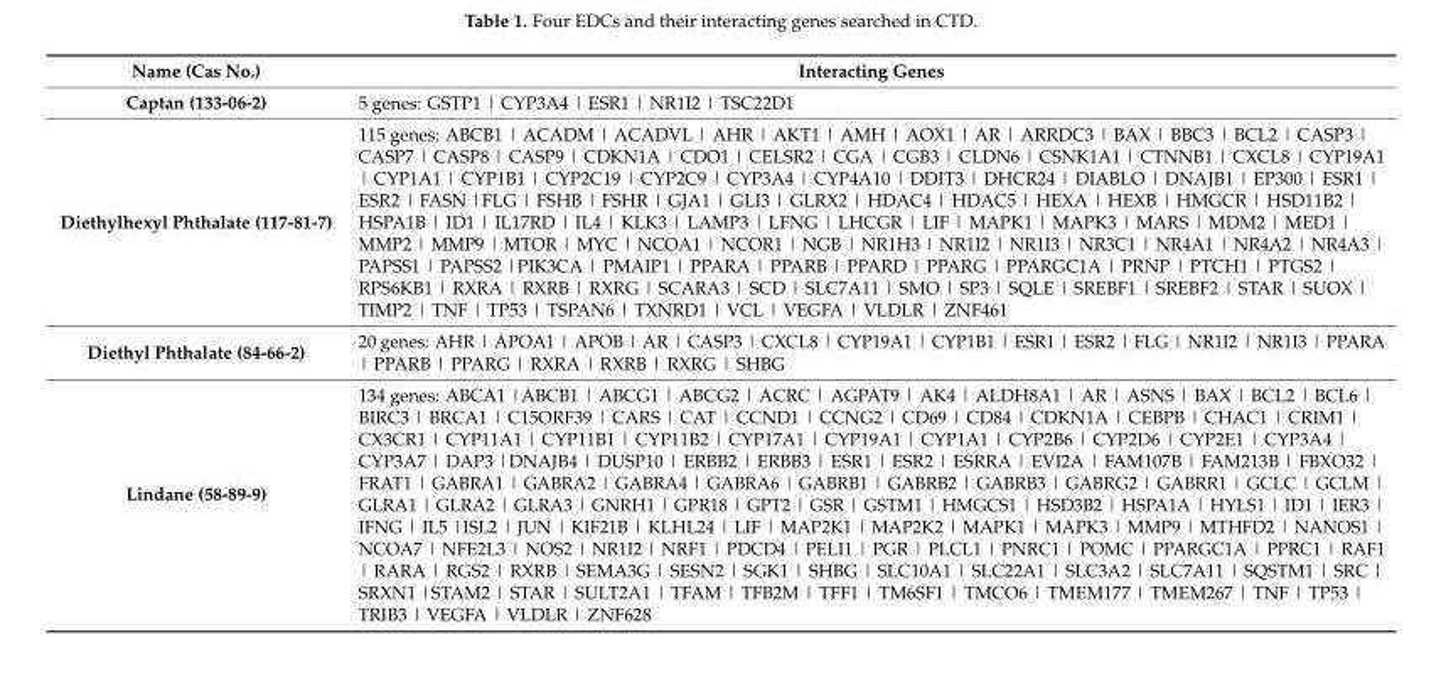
<table><thead><tr><td>Name (Cas No.)</td><td>Interacting Genes</td></tr></thead><tbody><tr><td>Captan (133-06-2)</td><td>5 genes: GSTP1 | CYP3A4 | ESR1 | NR1I2 | TSC22D1</td></tr><tr><td>Diethylhexyl Phthalate (117-81-7)</td><td>115 genes: ABCB1 | ACADM | ACADVL | AHR | AKT1 | AMH | AOX1 | AR | ARRDC3 | BAX | BBC3 | BCL2 | CASP3 | CASP7 | CASP8 | CASP9 | CDKN1A | CDO1 | CELSR2 | CGA | CGB3 | CLDN6 | CSNK1A1 | CTNNB1 | CXCL8 | CYP19A1 | CYP1A1 | CYP1B1 | CYP2C19 | CYP2C9 | CYP3A4 | CYP4A10 | DDIT3 | DHCR24 | DIABLO | DNAJB1 | EP300 | ESR1 | ESR2 | FASN |FLG | FSHB | FSHR | GJA1 | GLI3 | GLRX2 | HDAC4 | HDAC5 | HEXA | HEXB | HMGCR | HSD11B2 | HSPA1B | ID1 | IL17RD | IL4 | KLK3 | LAMP3 | LFNG | LHCGR | LIF | MAPK1 | MAPK3 | MARS | MDM2 | MED1 | MMP2 | MMP9 | MTOR | MYC | NCOA1 | NCOR1 | NGB | NR1H3 | NR1I2 | NR1I3 | NR3C1 | NR4A1 | NR4A2 | NR4A3 | PAPSS1 | PAPSS2 |PIK3CA | PMAIP1 | PPARA | PPARB | PPARD | PPARG | PPARGC1A | PRNP | PTCH1 | PTGS2 | RPS6KB1 | RXRA | RXRB | RXRG | SCARA3 | SCD | SLC7A11 | SMO | SP3 | SQLE | SREBF1 | SREBF2 | STAR | SUOX | TIMP2 | TNF | TP53 | TSPAN6 | TXNRD1 | VCL | VEGFA | VLDLR | ZNF461</td></tr><tr><td>Diethyl Phthalate (84-66-2)</td><td>20 genes: AHR | APOA1 | APOB | AR | CASP3 | CXCL8 | CYP19A1 | CYP1B1 | ESR1 | ESR2 | FLG | NR1I2 | NR1I3 | PPARA | PPARB | PPARG | RXRA | RXRB | RXRG | SHBG</td></tr><tr><td>Lindane (58-89-9)</td><td>134 genes: ABCA1 |ABCB1 | ABCG1 | ABCG2 | ACRC | AGPAT9 | AK4 | ALDH8A1 | AR | ASNS | BAX | BCL2 | BCL6 | BIRC3 | BRCA1 | C15ORF39 | CARS | CAT | CCND1 | CCNG2 | CD69 | CD84 | CDKN1A | CEBPB | CHAC1 | CRIM1 | CX3CR1 | CYP11A1 | CYP11B1 | CYP11B2 | CYP17A1 | CYP19A1 | CYP1A1 | CYP2B6 | CYP2D6 | CYP2E1 | CYP3A4 | CYP3A7 | DAP3 |DNAJB4 | DUSP10 | ERBB2 | ERBB3 | ESR1 | ESR2 | ESRRA | EVI2A | FAM107B | FAM213B | FBXO32 | FRAT1 | GABRA1 | GABRA2 | GABRA4 | GABRA6 | GABRB1 | GABRB2 | GABRB3 | GABRG2 | GABRR1 | GCLC | GCLM | GLRA1 | GLRA2 | GLRA3 | GNRH1 | GPR18 | GPT2 | GSR | GSTM1 | HMGCS1 | HSD3B2 | HSPA1A | HYLS1 | ID1 | IER3 | IFNG | IL5 |ISL2 | JUN | KIF21B | KLHL24 | LIF | MAP2K1 | MAP2K2 | MAPK1 | MAPK3 | MMP9 | MTHFD2 | NANOS1 | NCOA7 | NFE2L3 | NOS2 | NR1I2 | NRF1 | PDCD4 | PELI1 | PGR | PLCL1 | PNRC1 | POMC | PPARGC1A | PPRC1 | RAF1 | RARA | RGS2 | RXRB | SEMA3G | SESN2 | SGK1 | SHBG | SLC10A1 | SLC22A1 | SLC3A2 | SLC7A11 | SQSTM1 | SRC | SRXN1 |STAM2 | STAR | SULT2A1 | TFAM | TFB2M | TFF1 | TM6SF1 | TMCO6 | TMEM177 | TMEM267 | TNF | TP53 | TRIB3 | VEGFA | VLDLR | ZNF628</td></tr></tbody></table>